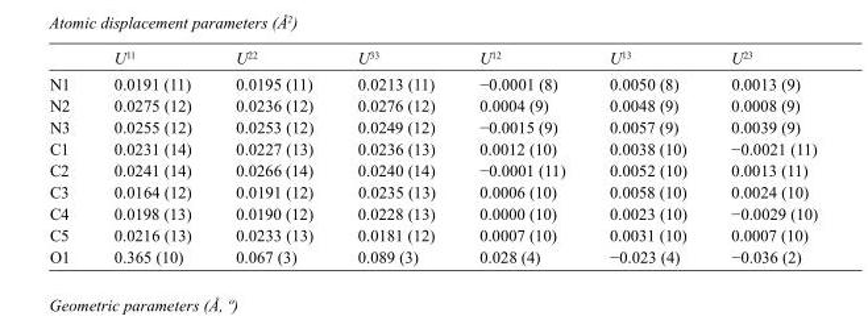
<table><thead><tr><td></td><td>U<sup>11</sup></td><td>U<sup>22</sup></td><td>U<sup>33</sup></td><td>U<sup>12</sup></td><td>U<sup>13</sup></td><td>U<sup>23</sup></td></tr></thead><tbody><tr><td>N1</td><td>0.0191 (11)</td><td>0.0195 (11)</td><td>0.0213 (11)</td><td>−0.0001 (8)</td><td>0.0050 (8)</td><td>0.0013 (9)</td></tr><tr><td>N2</td><td>0.0275 (12)</td><td>0.0236 (12)</td><td>0.0276 (12)</td><td>0.0004 (9)</td><td>0.0048 (9)</td><td>0.0008 (9)</td></tr><tr><td>N3</td><td>0.0255 (12)</td><td>0.0253 (12)</td><td>0.0249 (12)</td><td>−0.0015 (9)</td><td>0.0057 (9)</td><td>0.0039 (9)</td></tr><tr><td>C1</td><td>0.0231 (14)</td><td>0.0227 (13)</td><td>0.0236 (13)</td><td>0.0012 (10)</td><td>0.0038 (10)</td><td>−0.0021 (11)</td></tr><tr><td>C2</td><td>0.0241 (14)</td><td>0.0266 (14)</td><td>0.0240 (14)</td><td>−0.0001 (11)</td><td>0.0052 (10)</td><td>0.0013 (11)</td></tr><tr><td>C3</td><td>0.0164 (12)</td><td>0.0191 (12)</td><td>0.0235 (13)</td><td>0.0006 (10)</td><td>0.0058 (10)</td><td>0.0024 (10)</td></tr><tr><td>C4</td><td>0.0198 (13)</td><td>0.0190 (12)</td><td>0.0228 (13)</td><td>0.0000 (10)</td><td>0.0023 (10)</td><td>−0.0029 (10)</td></tr><tr><td>C5</td><td>0.0216 (13)</td><td>0.0233 (13)</td><td>0.0181 (12)</td><td>0.0007 (10)</td><td>0.0031 (10)</td><td>0.0007 (10)</td></tr><tr><td>O1</td><td>0.365 (10)</td><td>0.067 (3)</td><td>0.089 (3)</td><td>0.028 (4)</td><td>−0.023 (4)</td><td>−0.036 (2)</td></tr></tbody></table>